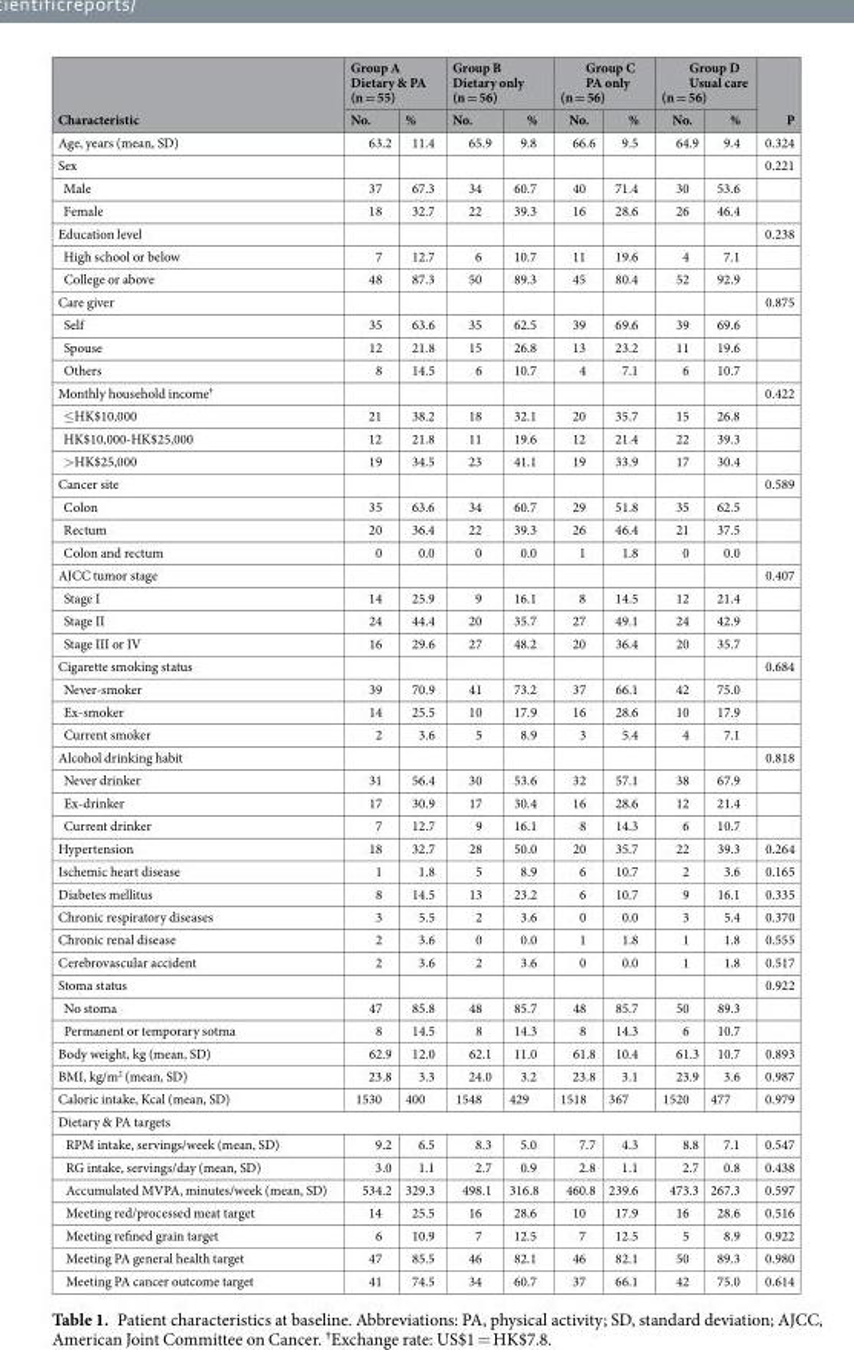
<table><thead><tr><td rowspan="2">Characteristic</td><td colspan="2">Group A Dietary &amp; PA (n = 55)</td><td colspan="2">Group B Dietary only (n = 56)</td><td colspan="2">Group C PA only (n = 56)</td><td colspan="2">Group D Usual care (n = 56)</td><td rowspan="2">P</td></tr><tr><td>No.</td><td>%</td><td>No.</td><td>%</td><td>No.</td><td>%</td><td>No.</td><td>%</td></tr></thead><tbody><tr><td>Age, years (mean, SD)</td><td>63.2</td><td>11.4</td><td>65.9</td><td>9.8</td><td>66.6</td><td>9.5</td><td>64.9</td><td>9.4</td><td>0.324</td></tr><tr><td>Sex</td><td></td><td></td><td></td><td></td><td></td><td></td><td></td><td></td><td>0.221</td></tr><tr><td>Male</td><td>37</td><td>67.3</td><td>34</td><td>60.7</td><td>40</td><td>71.4</td><td>30</td><td>53.6</td><td></td></tr><tr><td>Female</td><td>18</td><td>32.7</td><td>22</td><td>39.3</td><td>16</td><td>28.6</td><td>26</td><td>46.4</td><td></td></tr><tr><td>Education level</td><td></td><td></td><td></td><td></td><td></td><td></td><td></td><td></td><td>0.238</td></tr><tr><td>High school or below</td><td>7</td><td>12.7</td><td>6</td><td>10.7</td><td>11</td><td>19.6</td><td>4</td><td>7.1</td><td></td></tr><tr><td>College or above</td><td>48</td><td>87.3</td><td>50</td><td>89.3</td><td>45</td><td>80.4</td><td>52</td><td>92.9</td><td></td></tr><tr><td>Care giver</td><td></td><td></td><td></td><td></td><td></td><td></td><td></td><td></td><td>0.875</td></tr><tr><td>Self</td><td>35</td><td>63.6</td><td>35</td><td>62.5</td><td>39</td><td>69.6</td><td>39</td><td>69.6</td><td></td></tr><tr><td>Spouse</td><td>12</td><td>21.8</td><td>15</td><td>26.8</td><td>13</td><td>23.2</td><td>11</td><td>19.6</td><td></td></tr><tr><td>Others</td><td>8</td><td>14.5</td><td>6</td><td>10.7</td><td>4</td><td>7.1</td><td>6</td><td>10.7</td><td></td></tr><tr><td>Monthly household income<sup>†</sup></td><td></td><td></td><td></td><td></td><td></td><td></td><td></td><td></td><td>0.422</td></tr><tr><td>≤HK$10,000</td><td>21</td><td>38.2</td><td>18</td><td>32.1</td><td>20</td><td>35.7</td><td>15</td><td>26.8</td><td></td></tr><tr><td>HK$10,000-HK$25,000</td><td>12</td><td>21.8</td><td>11</td><td>19.6</td><td>12</td><td>21.4</td><td>22</td><td>39.3</td><td></td></tr><tr><td>&gt;HK$25,000</td><td>19</td><td>34.5</td><td>23</td><td>41.1</td><td>19</td><td>33.9</td><td>17</td><td>30.4</td><td></td></tr><tr><td>Cancer site</td><td></td><td></td><td></td><td></td><td></td><td></td><td></td><td></td><td>0.589</td></tr><tr><td>Colon</td><td>35</td><td>63.6</td><td>34</td><td>60.7</td><td>29</td><td>51.8</td><td>35</td><td>62.5</td><td></td></tr><tr><td>Rectum</td><td>20</td><td>36.4</td><td>22</td><td>39.3</td><td>26</td><td>46.4</td><td>21</td><td>37.5</td><td></td></tr><tr><td>Colon and rectum</td><td>0</td><td>0.0</td><td>0</td><td>0.0</td><td>1</td><td>1.8</td><td>0</td><td>0.0</td><td></td></tr><tr><td>AJCC tumor stage</td><td></td><td></td><td></td><td></td><td></td><td></td><td></td><td></td><td>0.407</td></tr><tr><td>Stage I</td><td>14</td><td>25.9</td><td>9</td><td>16.1</td><td>8</td><td>14.5</td><td>12</td><td>21.4</td><td></td></tr><tr><td>Stage II</td><td>24</td><td>44.4</td><td>20</td><td>35.7</td><td>27</td><td>49.1</td><td>24</td><td>42.9</td><td></td></tr><tr><td>Stage III or IV</td><td>16</td><td>29.6</td><td>27</td><td>48.2</td><td>20</td><td>36.4</td><td>20</td><td>35.7</td><td></td></tr><tr><td>Cigarette smoking status</td><td></td><td></td><td></td><td></td><td></td><td></td><td></td><td></td><td>0.684</td></tr><tr><td>Never-smoker</td><td>39</td><td>70.9</td><td>41</td><td>73.2</td><td>37</td><td>66.1</td><td>42</td><td>75.0</td><td></td></tr><tr><td>Ex-smoker</td><td>14</td><td>25.5</td><td>10</td><td>17.9</td><td>16</td><td>28.6</td><td>10</td><td>17.9</td><td></td></tr><tr><td>Current smoker</td><td>2</td><td>3.6</td><td>5</td><td>8.9</td><td>3</td><td>5.4</td><td>4</td><td>7.1</td><td></td></tr><tr><td>Alcohol drinking habit</td><td></td><td></td><td></td><td></td><td></td><td></td><td></td><td></td><td>0.818</td></tr><tr><td>Never drinker</td><td>31</td><td>56.4</td><td>30</td><td>53.6</td><td>32</td><td>57.1</td><td>38</td><td>67.9</td><td></td></tr><tr><td>Ex-drinker</td><td>17</td><td>30.9</td><td>17</td><td>30.4</td><td>16</td><td>28.6</td><td>12</td><td>21.4</td><td></td></tr><tr><td>Current drinker</td><td>7</td><td>12.7</td><td>9</td><td>16.1</td><td>8</td><td>14.3</td><td>6</td><td>10.7</td><td></td></tr><tr><td>Hypertension</td><td>18</td><td>32.7</td><td>28</td><td>50.0</td><td>20</td><td>35.7</td><td>22</td><td>39.3</td><td>0.264</td></tr><tr><td>Ischemic heart disease</td><td>1</td><td>1.8</td><td>5</td><td>8.9</td><td>6</td><td>10.7</td><td>2</td><td>3.6</td><td>0.165</td></tr><tr><td>Diabetes mellitus</td><td>8</td><td>14.5</td><td>13</td><td>23.2</td><td>6</td><td>10.7</td><td>9</td><td>16.1</td><td>0.335</td></tr><tr><td>Chronic respiratory diseases</td><td>3</td><td>5.5</td><td>2</td><td>3.6</td><td>0</td><td>0.0</td><td>3</td><td>5.4</td><td>0.370</td></tr><tr><td>Chronic renal disease</td><td>2</td><td>3.6</td><td>0</td><td>0.0</td><td>1</td><td>1.8</td><td>1</td><td>1.8</td><td>0.555</td></tr><tr><td>Cerebrovascular accident</td><td>2</td><td>3.6</td><td>2</td><td>3.6</td><td>0</td><td>0.0</td><td>1</td><td>1.8</td><td>0.517</td></tr><tr><td>Stoma status</td><td></td><td></td><td></td><td></td><td></td><td></td><td></td><td></td><td>0.922</td></tr><tr><td>No stoma</td><td>47</td><td>85.8</td><td>48</td><td>85.7</td><td>48</td><td>85.7</td><td>50</td><td>89.3</td><td></td></tr><tr><td>Permanent or temporary sotma</td><td>8</td><td>14.5</td><td>8</td><td>14.3</td><td>8</td><td>14.3</td><td>6</td><td>10.7</td><td></td></tr><tr><td>Body weight, kg (mean, SD)</td><td>62.9</td><td>12.0</td><td>62.1</td><td>11.0</td><td>61.8</td><td>10.4</td><td>61.3</td><td>10.7</td><td>0.893</td></tr><tr><td>BMI, kg/m<sup>2</sup> (mean, SD)</td><td>23.8</td><td>3.3</td><td>24.0</td><td>3.2</td><td>23.8</td><td>3.1</td><td>23.9</td><td>3.6</td><td>0.987</td></tr><tr><td>Caloric intake, Kcal (mean, SD)</td><td>1530</td><td>400</td><td>1548</td><td>429</td><td>1518</td><td>367</td><td>1520</td><td>477</td><td>0.979</td></tr><tr><td colspan="10">Dietary &amp; PA targets</td></tr><tr><td>RPM intake, servings/week (mean, SD)</td><td>9.2</td><td>6.5</td><td>8.3</td><td>5.0</td><td>7.7</td><td>4.3</td><td>8.8</td><td>7.1</td><td>0.547</td></tr><tr><td>RG intake, servings/day (mean, SD)</td><td>3.0</td><td>1.1</td><td>2.7</td><td>0.9</td><td>2.8</td><td>1.1</td><td>2.7</td><td>0.8</td><td>0.438</td></tr><tr><td>Accumulated MVPA, minutes/week (mean, SD)</td><td>534.2</td><td>329.3</td><td>498.1</td><td>316.8</td><td>460.8</td><td>239.6</td><td>473.3</td><td>267.3</td><td>0.597</td></tr><tr><td>Meeting red/processed meat target</td><td>14</td><td>25.5</td><td>16</td><td>28.6</td><td>10</td><td>17.9</td><td>16</td><td>28.6</td><td>0.516</td></tr><tr><td>Meeting refined grain target</td><td>6</td><td>10.9</td><td>7</td><td>12.5</td><td>7</td><td>12.5</td><td>5</td><td>8.9</td><td>0.922</td></tr><tr><td>Meeting PA general health target</td><td>47</td><td>85.5</td><td>46</td><td>82.1</td><td>46</td><td>82.1</td><td>50</td><td>89.3</td><td>0.980</td></tr><tr><td>Meeting PA cancer outcome target</td><td>41</td><td>74.5</td><td>34</td><td>60.7</td><td>37</td><td>66.1</td><td>42</td><td>75.0</td><td>0.614</td></tr></tbody></table>